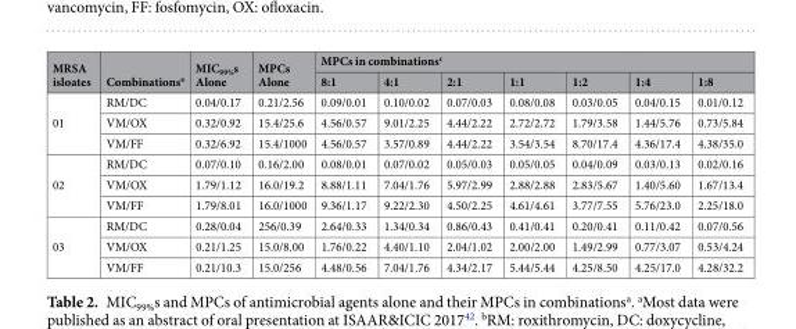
<table><thead><tr><td rowspan="2">MRSA isloates</td><td rowspan="2">Combinations<sup>a</sup></td><td rowspan="2">MIC<sub>99%</sub>s Alone</td><td rowspan="2">MPCs Alone</td><td colspan="7">MPCs in combinations<sup>c</sup></td></tr><tr><td>8:1</td><td>4:1</td><td>2:1</td><td>1:1</td><td>1:2</td><td>1:4</td><td>1:8</td></tr></thead><tbody><tr><td rowspan="3">01</td><td>RM/DC</td><td>0.04/0.17</td><td>0.21/2.56</td><td>0.09/0.01</td><td>0.10/0.02</td><td>0.07/0.03</td><td>0.08/0.08</td><td>0.03/0.05</td><td>0.04/0.15</td><td>0.01/0.12</td></tr><tr><td>VM/OX</td><td>0.32/0.92</td><td>15.4/25.6</td><td>4.56/0.57</td><td>9.01/2.25</td><td>4.44/2.22</td><td>2.72/2.72</td><td>1.79/3.58</td><td>1.44/5.76</td><td>0.73/5.84</td></tr><tr><td>VM/FF</td><td>0.32/6.92</td><td>15.4/1000</td><td>4.56/0.57</td><td>3.57/0.89</td><td>4.44/2.22</td><td>3.54/3.54</td><td>8.70/17.4</td><td>4.36/17.4</td><td>4.38/35.0</td></tr><tr><td rowspan="3">02</td><td>RM/DC</td><td>0.07/0.10</td><td>0.16/2.00</td><td>0.08/0.01</td><td>0.07/0.02</td><td>0.05/0.03</td><td>0.05/0.05</td><td>0.04/0.09</td><td>0.03/0.13</td><td>0.02/0.16</td></tr><tr><td>VM/OX</td><td>1.79/1.12</td><td>16.0/19.2</td><td>8.88/1.11</td><td>7.04/1.76</td><td>5.97/2.99</td><td>2.88/2.88</td><td>2.83/5.67</td><td>1.40/5.60</td><td>1.67/13.4</td></tr><tr><td>VM/FF</td><td>1.79/8.01</td><td>16.0/1000</td><td>9.36/1.17</td><td>9.22/2.30</td><td>4.50/2.25</td><td>4.61/4.61</td><td>3.77/7.55</td><td>5.76/23.0</td><td>2.25/18.0</td></tr><tr><td rowspan="3">03</td><td>RM/DC</td><td>0.28/0.04</td><td>256/0.39</td><td>2.64/0.33</td><td>1.34/0.34</td><td>0.86/0.43</td><td>0.41/0.41</td><td>0.20/0.41</td><td>0.11/0.42</td><td>0.07/0.56</td></tr><tr><td>VM/OX</td><td>0.21/1.25</td><td>15.0/8.00</td><td>1.76/0.22</td><td>4.40/1.10</td><td>2.04/1.02</td><td>2.00/2.00</td><td>1.49/2.99</td><td>0.77/3.07</td><td>0.53/4.24</td></tr><tr><td>VM/FF</td><td>0.21/10.3</td><td>15.0/256</td><td>4.48/0.56</td><td>7.04/1.76</td><td>4.34/2.17</td><td>5.44/5.44</td><td>4.25/8.50</td><td>4.25/17.0</td><td>4.28/32.2</td></tr></tbody></table>